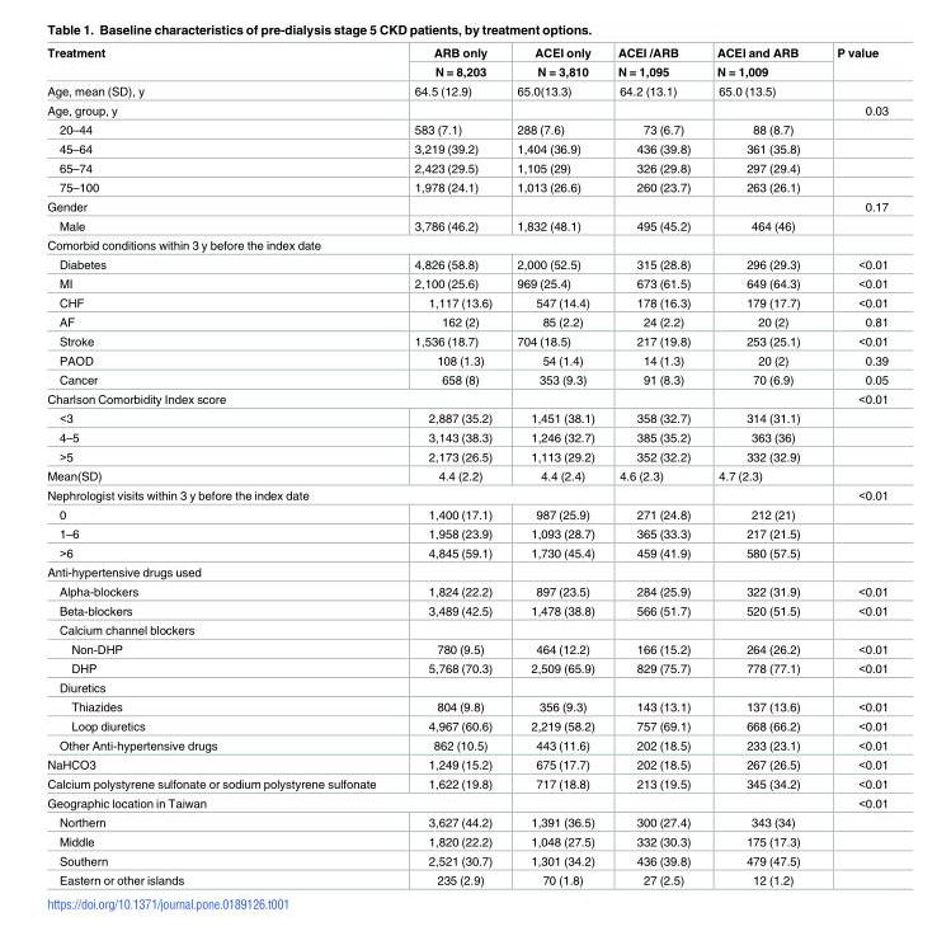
<table><thead><tr><td rowspan="2">Treatment</td><td rowspan="2">ARB only N = 8,203</td><td rowspan="2">ACEI only N = 3,810</td><td rowspan="2">ACEI /ARB N = 1,095</td><td rowspan="2">ACEI and ARB N = 1,009</td><td rowspan="2">P value</td></tr><tr></tr></thead><tbody><tr><td>Age, mean (SD), y</td><td>64.5 (12.9)</td><td>65.0(13.3)</td><td>64.2 (13.1)</td><td>65.0 (13.5)</td><td></td></tr><tr><td>Age, group, y</td><td></td><td></td><td></td><td></td><td>0.03</td></tr><tr><td>20–44</td><td>583 (7.1)</td><td>288 (7.6)</td><td>73 (6.7)</td><td>88 (8.7)</td><td></td></tr><tr><td>45–64</td><td>3,219 (39.2)</td><td>1,404 (36.9)</td><td>436 (39.8)</td><td>361 (35.8)</td><td></td></tr><tr><td>65–74</td><td>2,423 (29.5)</td><td>1,105 (29)</td><td>326 (29.8)</td><td>297 (29.4)</td><td></td></tr><tr><td>75–100</td><td>1,978 (24.1)</td><td>1,013 (26.6)</td><td>260 (23.7)</td><td>263 (26.1)</td><td></td></tr><tr><td>Gender</td><td></td><td></td><td></td><td></td><td>0.17</td></tr><tr><td>Male</td><td>3,786 (46.2)</td><td>1,832 (48.1)</td><td>495 (45.2)</td><td>464 (46)</td><td></td></tr><tr><td colspan="6">Comorbid conditions within 3 y before the index date</td></tr><tr><td>Diabetes</td><td>4,826 (58.8)</td><td>2,000 (52.5)</td><td>315 (28.8)</td><td>296 (29.3)</td><td>&lt;0.01</td></tr><tr><td>MI</td><td>2,100 (25.6)</td><td>969 (25.4)</td><td>673 (61.5)</td><td>649 (64.3)</td><td>&lt;0.01</td></tr><tr><td>CHF</td><td>1,117 (13.6)</td><td>547 (14.4)</td><td>178 (16.3)</td><td>179 (17.7)</td><td>&lt;0.01</td></tr><tr><td>AF</td><td>162 (2)</td><td>85 (2.2)</td><td>24 (2.2)</td><td>20 (2)</td><td>0.81</td></tr><tr><td>Stroke</td><td>1,536 (18.7)</td><td>704 (18.5)</td><td>217 (19.8)</td><td>253 (25.1)</td><td>&lt;0.01</td></tr><tr><td>PAOD</td><td>108 (1.3)</td><td>54 (1.4)</td><td>14 (1.3)</td><td>20 (2)</td><td>0.39</td></tr><tr><td>Cancer</td><td>658 (8)</td><td>353 (9.3)</td><td>91 (8.3)</td><td>70 (6.9)</td><td>0.05</td></tr><tr><td colspan="2">Charlson Comorbidity Index score</td><td></td><td></td><td></td><td>&lt;0.01</td></tr><tr><td>&lt;3</td><td>2,887 (35.2)</td><td>1,451 (38.1)</td><td>358 (32.7)</td><td>314 (31.1)</td><td></td></tr><tr><td>4–5</td><td>3,143 (38.3)</td><td>1,246 (32.7)</td><td>385 (35.2)</td><td>363 (36)</td><td></td></tr><tr><td>&gt;5</td><td>2,173 (26.5)</td><td>1,113 (29.2)</td><td>352 (32.2)</td><td>332 (32.9)</td><td></td></tr><tr><td>Mean(SD)</td><td>4.4 (2.2)</td><td>4.4 (2.4)</td><td>4.6 (2.3)</td><td>4.7 (2.3)</td><td></td></tr><tr><td colspan="3">Nephrologist visits within 3 y before the index date</td><td></td><td></td><td>&lt;0.01</td></tr><tr><td>0</td><td>1,400 (17.1)</td><td>987 (25.9)</td><td>271 (24.8)</td><td>212 (21)</td><td></td></tr><tr><td>1–6</td><td>1,958 (23.9)</td><td>1,093 (28.7)</td><td>365 (33.3)</td><td>217 (21.5)</td><td></td></tr><tr><td>&gt;6</td><td>4,845 (59.1)</td><td>1,730 (45.4)</td><td>459 (41.9)</td><td>580 (57.5)</td><td></td></tr><tr><td colspan="6">Anti-hypertensive drugs used</td></tr><tr><td>Alpha-blockers</td><td>1,824 (22.2)</td><td>897 (23.5)</td><td>284 (25.9)</td><td>322 (31.9)</td><td>&lt;0.01</td></tr><tr><td>Beta-blockers</td><td>3,489 (42.5)</td><td>1,478 (38.8)</td><td>566 (51.7)</td><td>520 (51.5)</td><td>&lt;0.01</td></tr><tr><td colspan="6">Calcium channel blockers</td></tr><tr><td>Non-DHP</td><td>780 (9.5)</td><td>464 (12.2)</td><td>166 (15.2)</td><td>264 (26.2)</td><td>&lt;0.01</td></tr><tr><td>DHP</td><td>5,768 (70.3)</td><td>2,509 (65.9)</td><td>829 (75.7)</td><td>778 (77.1)</td><td>&lt;0.01</td></tr><tr><td colspan="6">Diuretics</td></tr><tr><td>Thiazides</td><td>804 (9.8)</td><td>356 (9.3)</td><td>143 (13.1)</td><td>137 (13.6)</td><td>&lt;0.01</td></tr><tr><td>Loop diuretics</td><td>4,967 (60.6)</td><td>2,219 (58.2)</td><td>757 (69.1)</td><td>668 (66.2)</td><td>&lt;0.01</td></tr><tr><td>Other Anti-hypertensive drugs</td><td>862 (10.5)</td><td>443 (11.6)</td><td>202 (18.5)</td><td>233 (23.1)</td><td>&lt;0.01</td></tr><tr><td>NaHCO3</td><td>1,249 (15.2)</td><td>675 (17.7)</td><td>202 (18.5)</td><td>267 (26.5)</td><td>&lt;0.01</td></tr><tr><td>Calcium polystyrene sulfonate or sodium polystyrene sulfonate</td><td>1,622 (19.8)</td><td>717 (18.8)</td><td>213 (19.5)</td><td>345 (34.2)</td><td>&lt;0.01</td></tr><tr><td colspan="2">Geographic location in Taiwan</td><td></td><td></td><td></td><td>&lt;0.01</td></tr><tr><td>Northern</td><td>3,627 (44.2)</td><td>1,391 (36.5)</td><td>300 (27.4)</td><td>343 (34)</td><td></td></tr><tr><td>Middle</td><td>1,820 (22.2)</td><td>1,048 (27.5)</td><td>332 (30.3)</td><td>175 (17.3)</td><td></td></tr><tr><td>Southern</td><td>2,521 (30.7)</td><td>1,301 (34.2)</td><td>436 (39.8)</td><td>479 (47.5)</td><td></td></tr><tr><td>Eastern or other islands</td><td>235 (2.9)</td><td>70 (1.8)</td><td>27 (2.5)</td><td>12 (1.2)</td><td></td></tr></tbody></table>